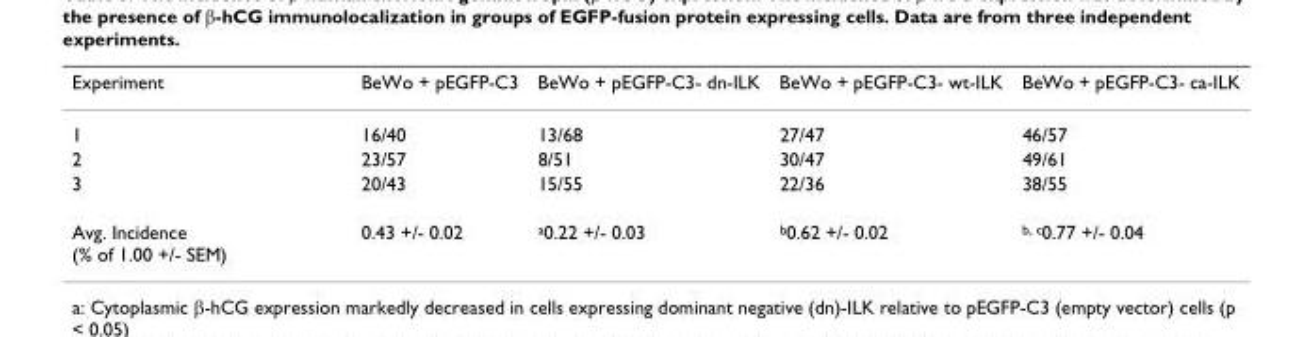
<table><thead><tr><td>Experiment</td><td>BeWo + pEGFP-C3</td><td>BeWo + pEGFP-C3- dn-ILK</td><td>BeWo + pEGFP-C3- wt-ILK</td><td>BeWo + pEGFP-C3- ca-ILK</td></tr></thead><tbody><tr><td>1</td><td>16/40</td><td>13/68</td><td>27/47</td><td>46/57</td></tr><tr><td>2</td><td>23/57</td><td>8/51</td><td>30/47</td><td>49/61</td></tr><tr><td>3</td><td>20/43</td><td>15/55</td><td>22/36</td><td>38/55</td></tr><tr><td>Avg. Incidence (% of 1.00 +/- SEM)</td><td>0.43 +/- 0.02</td><td><sup>a</sup>0.22 +/- 0.03</td><td><sup>b</sup>0.62 +/- 0.02</td><td><sup>b, c</sup>0.77 +/- 0.04</td></tr></tbody></table>